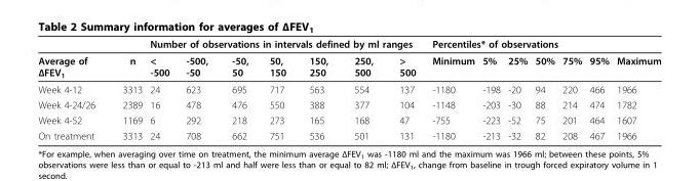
<table><thead><tr><td rowspan="2">Average of ΔFEV<sub>1</sub></td><td rowspan="2">n</td><td colspan="7">Number of observations in intervals defined by ml ranges</td><td colspan="7">Percentiles* of observations</td></tr><tr><td>&lt; -500</td><td>-500, -50</td><td>-50, 50</td><td>50, 150</td><td>150, 250</td><td>250, 500</td><td>&gt; 500</td><td>Minimum</td><td>5%</td><td>25%</td><td>50%</td><td>75%</td><td>95%</td><td>Maximum</td></tr></thead><tbody><tr><td>Week 4-12</td><td>3313</td><td>24</td><td>623</td><td>695</td><td>717</td><td>563</td><td>554</td><td>137</td><td>-1180</td><td>-198</td><td>-20</td><td>94</td><td>220</td><td>466</td><td>1966</td></tr><tr><td>Week 4-24/26</td><td>2389</td><td>16</td><td>478</td><td>476</td><td>550</td><td>388</td><td>377</td><td>104</td><td>-1148</td><td>-203</td><td>-30</td><td>88</td><td>214</td><td>474</td><td>1782</td></tr><tr><td>Week 4-52</td><td>1169</td><td>6</td><td>292</td><td>218</td><td>273</td><td>165</td><td>168</td><td>47</td><td>-755</td><td>-223</td><td>-52</td><td>75</td><td>201</td><td>464</td><td>1607</td></tr><tr><td>On treatment</td><td>3313</td><td>24</td><td>708</td><td>662</td><td>751</td><td>536</td><td>501</td><td>131</td><td>-1180</td><td>-213</td><td>-32</td><td>82</td><td>208</td><td>467</td><td>1966</td></tr></tbody></table>